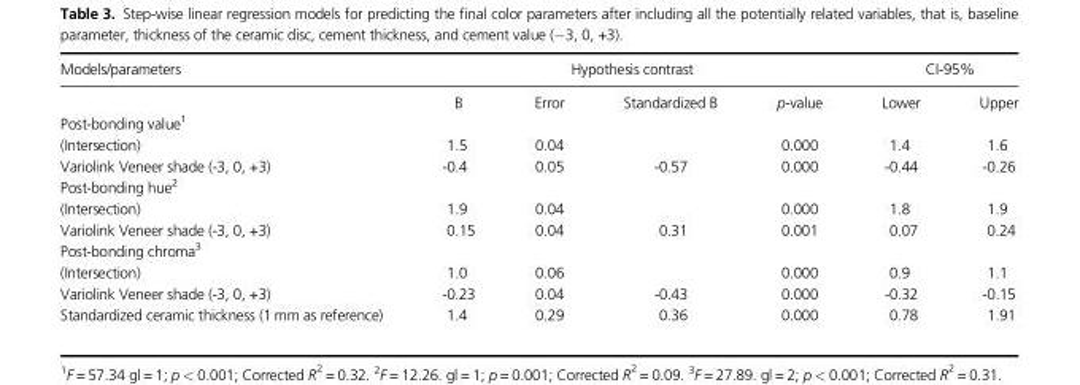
<table><thead><tr><td rowspan="2">Models/parameters</td><td colspan="4">Hypothesis contrast</td><td colspan="2">CI-95%</td></tr><tr><td>B</td><td>Error</td><td>Standardized B</td><td>p-value</td><td>Lower</td><td>Upper</td></tr></thead><tbody><tr><td colspan="7">Post-bonding value<sup>1</sup></td></tr><tr><td>(Intersection)</td><td>1.5</td><td>0.04</td><td></td><td>0.000</td><td>1.4</td><td>1.6</td></tr><tr><td>Variolink Veneer shade (-3, 0, +3)</td><td>-0.4</td><td>0.05</td><td>-0.57</td><td>0.000</td><td>-0.44</td><td>-0.26</td></tr><tr><td colspan="7">Post-bonding hue<sup>2</sup></td></tr><tr><td>(Intersection)</td><td>1.9</td><td>0.04</td><td></td><td>0.000</td><td>1.8</td><td>1.9</td></tr><tr><td>Variolink Veneer shade (-3, 0, +3)</td><td>0.15</td><td>0.04</td><td>0.31</td><td>0.001</td><td>0.07</td><td>0.24</td></tr><tr><td colspan="7">Post-bonding chroma<sup>3</sup></td></tr><tr><td>(Intersection)</td><td>1.0</td><td>0.06</td><td></td><td>0.000</td><td>0.9</td><td>1.1</td></tr><tr><td>Variolink Veneer shade (-3, 0, +3)</td><td>-0.23</td><td>0.04</td><td>-0.43</td><td>0.000</td><td>-0.32</td><td>-0.15</td></tr><tr><td>Standardized ceramic thickness (1 mm as reference)</td><td>1.4</td><td>0.29</td><td>0.36</td><td>0.000</td><td>0.78</td><td>1.91</td></tr></tbody></table>